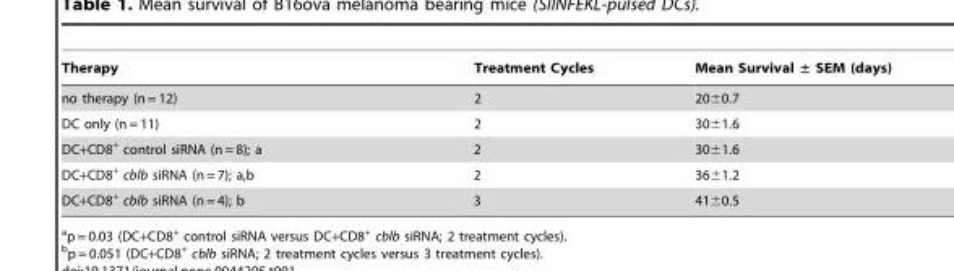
<table><thead><tr><td>Therapy</td><td>Treatment Cycles</td><td>Mean Survival ± SEM (days)</td></tr></thead><tbody><tr><td>no therapy (n = 12)</td><td>2</td><td>20±0.7</td></tr><tr><td>DC only (n = 11)</td><td>2</td><td>30±1.6</td></tr><tr><td>DC+CD8<sup>+</sup> control siRNA (n = 8); a</td><td>2</td><td>30±1.6</td></tr><tr><td>DC+CD8<sup>+</sup> cblb siRNA (n = 7); a,b</td><td>2</td><td>36±1.2</td></tr><tr><td>DC+CD8<sup>+</sup> cblb siRNA (n = 4); b</td><td>3</td><td>41±0.5</td></tr></tbody></table>